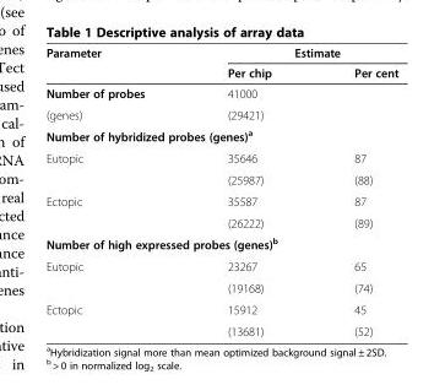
<table><thead><tr><td rowspan="2">Parameter</td><td colspan="2">Estimate</td></tr><tr><td>Per chip</td><td>Per cent</td></tr></thead><tbody><tr><td>Number of probes</td><td>41000</td><td></td></tr><tr><td>(genes)</td><td>(29421)</td><td></td></tr><tr><td colspan="3">Number of hybridized probes (genes)<sup>a</sup></td></tr><tr><td rowspan="2">Eutopic</td><td>35646</td><td>87</td></tr><tr><td>(25987)</td><td>(88)</td></tr><tr><td rowspan="2">Ectopic</td><td>35587</td><td>87</td></tr><tr><td>(26222)</td><td>(89)</td></tr><tr><td colspan="3">Number of high expressed probes (genes)<sup>b</sup></td></tr><tr><td rowspan="2">Eutopic</td><td>23267</td><td>65</td></tr><tr><td>(19168)</td><td>(74)</td></tr><tr><td rowspan="2">Ectopic</td><td>15912</td><td>45</td></tr><tr><td>(13681)</td><td>(52)</td></tr></tbody></table>